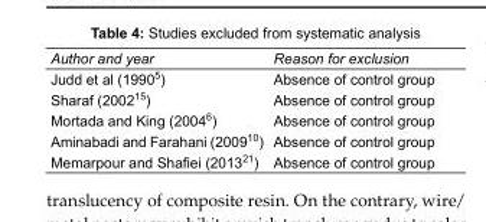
<table><tbody><tr><td>Author and year</td><td>Reason for exclusion</td></tr><tr><td>Judd et al (1990<sup>5</sup>)</td><td>Absence of control group</td></tr><tr><td>Sharaf (2002<sup>15</sup>)</td><td>Absence of control group</td></tr><tr><td>Mortada and King (2004<sup>6</sup>)</td><td>Absence of control group</td></tr><tr><td>Aminabadi and Farahani (2009<sup>10</sup>)</td><td>Absence of control group</td></tr><tr><td>Memarpour and Shafiei (201321)</td><td>Absence of control group</td></tr></tbody></table>